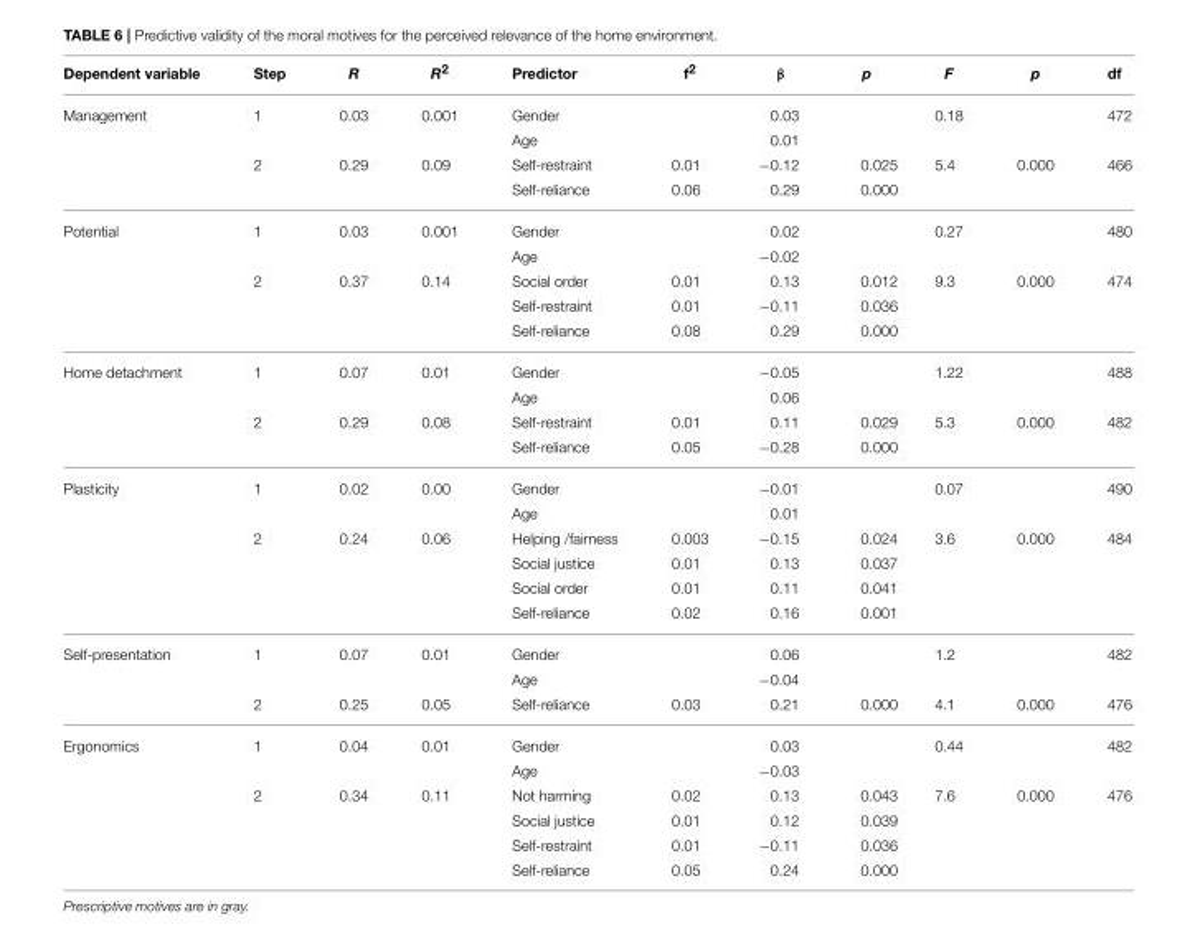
<table><thead><tr><td>Dependent variable</td><td>Step</td><td>R</td><td>R<sup>2</sup></td><td>Predictor</td><td>f<sup>2</sup></td><td>β</td><td>p</td><td>F</td><td>p</td><td>df</td></tr></thead><tbody><tr><td rowspan="4">Management</td><td>1</td><td>0.03</td><td>0.001</td><td>Gender</td><td></td><td>0.03</td><td></td><td>0.18</td><td></td><td>472</td></tr><tr><td></td><td></td><td></td><td>Age</td><td></td><td>0.01</td><td></td><td></td><td></td><td></td></tr><tr><td>2</td><td>0.29</td><td>0.09</td><td>Self-restraint</td><td>0.01</td><td>−0.12</td><td>0.025</td><td>5.4</td><td>0.000</td><td>466</td></tr><tr><td></td><td></td><td></td><td>Self-reliance</td><td>0.06</td><td>0.29</td><td>0.000</td><td></td><td></td><td></td></tr><tr><td rowspan="5">Potential</td><td>1</td><td>0.03</td><td>0.001</td><td>Gender</td><td></td><td>0.02</td><td></td><td>0.27</td><td></td><td>480</td></tr><tr><td></td><td></td><td></td><td>Age</td><td></td><td>−0.02</td><td></td><td></td><td></td><td></td></tr><tr><td>2</td><td>0.37</td><td>0.14</td><td>Social order</td><td>0.01</td><td>0.13</td><td>0.012</td><td>9.3</td><td>0.000</td><td>474</td></tr><tr><td></td><td></td><td></td><td>Self-restraint</td><td>0.01</td><td>−0.11</td><td>0.036</td><td></td><td></td><td></td></tr><tr><td></td><td></td><td></td><td>Self-reliance</td><td>0.08</td><td>0.29</td><td>0.000</td><td></td><td></td><td></td></tr><tr><td rowspan="4">Home detachment</td><td>1</td><td>0.07</td><td>0.01</td><td>Gender</td><td></td><td>−0.05</td><td></td><td>1.22</td><td></td><td>488</td></tr><tr><td></td><td></td><td></td><td>Age</td><td></td><td>0.06</td><td></td><td></td><td></td><td></td></tr><tr><td>2</td><td>0.29</td><td>0.08</td><td>Self-restraint</td><td>0.01</td><td>0.11</td><td>0.029</td><td>5.3</td><td>0.000</td><td>482</td></tr><tr><td></td><td></td><td></td><td>Self-reliance</td><td>0.05</td><td>−0.28</td><td>0.000</td><td></td><td></td><td></td></tr><tr><td rowspan="6">Plasticity</td><td>1</td><td>0.02</td><td>0.00</td><td>Gender</td><td></td><td>−0.01</td><td></td><td>0.07</td><td></td><td>490</td></tr><tr><td></td><td></td><td></td><td>Age</td><td></td><td>0.01</td><td></td><td></td><td></td><td></td></tr><tr><td>2</td><td>0.24</td><td>0.06</td><td>Helping /fairness</td><td>0.003</td><td>−0.15</td><td>0.024</td><td>3.6</td><td>0.000</td><td>484</td></tr><tr><td></td><td></td><td></td><td>Social justice</td><td>0.01</td><td>0.13</td><td>0.037</td><td></td><td></td><td></td></tr><tr><td></td><td></td><td></td><td>Social order</td><td>0.01</td><td>0.11</td><td>0.041</td><td></td><td></td><td></td></tr><tr><td></td><td></td><td></td><td>Self-reliance</td><td>0.02</td><td>0.16</td><td>0.001</td><td></td><td></td><td></td></tr><tr><td rowspan="3">Self-presentation</td><td>1</td><td>0.07</td><td>0.01</td><td>Gender</td><td></td><td>0.06</td><td></td><td>1.2</td><td></td><td>482</td></tr><tr><td></td><td></td><td></td><td>Age</td><td></td><td>−0.04</td><td></td><td></td><td></td><td></td></tr><tr><td>2</td><td>0.25</td><td>0.05</td><td>Self-reliance</td><td>0.03</td><td>0.21</td><td>0.000</td><td>4.1</td><td>0.000</td><td>476</td></tr><tr><td rowspan="6">Ergonomics</td><td>1</td><td>0.04</td><td>0.01</td><td>Gender</td><td></td><td>0.03</td><td></td><td>0.44</td><td></td><td>482</td></tr><tr><td></td><td></td><td></td><td>Age</td><td></td><td>−0.03</td><td></td><td></td><td></td><td></td></tr><tr><td>2</td><td>0.34</td><td>0.11</td><td>Not harming</td><td>0.02</td><td>0.13</td><td>0.043</td><td>7.6</td><td>0.000</td><td>476</td></tr><tr><td></td><td></td><td></td><td>Social justice</td><td>0.01</td><td>0.12</td><td>0.039</td><td></td><td></td><td></td></tr><tr><td></td><td></td><td></td><td>Self-restraint</td><td>0.01</td><td>−0.11</td><td>0.036</td><td></td><td></td><td></td></tr><tr><td></td><td></td><td></td><td>Self-reliance</td><td>0.05</td><td>0.24</td><td>0.000</td><td></td><td></td><td></td></tr></tbody></table>